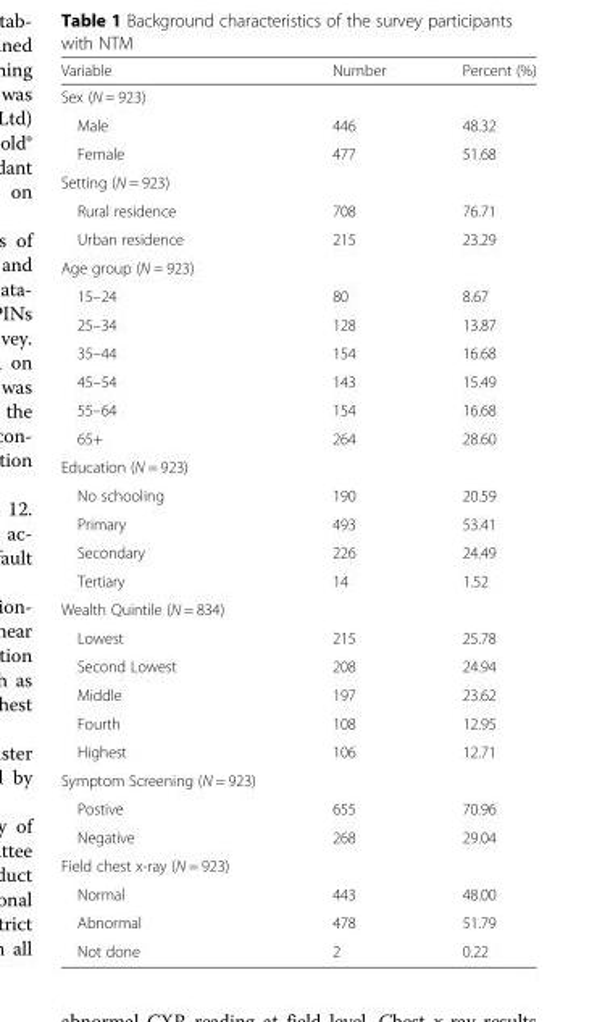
<table><thead><tr><td>Variable</td><td>Number</td><td>Percent (%)</td></tr></thead><tbody><tr><td colspan="3">Sex (N = 923)</td></tr><tr><td>Male</td><td>446</td><td>48.32</td></tr><tr><td>Female</td><td>477</td><td>51.68</td></tr><tr><td colspan="3">Setting (N = 923)</td></tr><tr><td>Rural residence</td><td>708</td><td>76.71</td></tr><tr><td>Urban residence</td><td>215</td><td>23.29</td></tr><tr><td colspan="3">Age group (N = 923)</td></tr><tr><td>15–24</td><td>80</td><td>8.67</td></tr><tr><td>25–34</td><td>128</td><td>13.87</td></tr><tr><td>35–44</td><td>154</td><td>16.68</td></tr><tr><td>45–54</td><td>143</td><td>15.49</td></tr><tr><td>55–64</td><td>154</td><td>16.68</td></tr><tr><td>65+</td><td>264</td><td>28.60</td></tr><tr><td colspan="3">Education (N = 923)</td></tr><tr><td>No schooling</td><td>190</td><td>20.59</td></tr><tr><td>Primary</td><td>493</td><td>53.41</td></tr><tr><td>Secondary</td><td>226</td><td>24.49</td></tr><tr><td>Tertiary</td><td>14</td><td>1.52</td></tr><tr><td colspan="3">Wealth Quintile (N = 834)</td></tr><tr><td>Lowest</td><td>215</td><td>25.78</td></tr><tr><td>Second Lowest</td><td>208</td><td>24.94</td></tr><tr><td>Middle</td><td>197</td><td>23.62</td></tr><tr><td>Fourth</td><td>108</td><td>12.95</td></tr><tr><td>Highest</td><td>106</td><td>12.71</td></tr><tr><td colspan="3">Symptom Screening (N = 923)</td></tr><tr><td>Postive</td><td>655</td><td>70.96</td></tr><tr><td>Negative</td><td>268</td><td>29.04</td></tr><tr><td colspan="3">Field chest x-ray (N = 923)</td></tr><tr><td>Normal</td><td>443</td><td>48.00</td></tr><tr><td>Abnormal</td><td>478</td><td>51.79</td></tr><tr><td>Not done</td><td>2</td><td>0.22</td></tr></tbody></table>